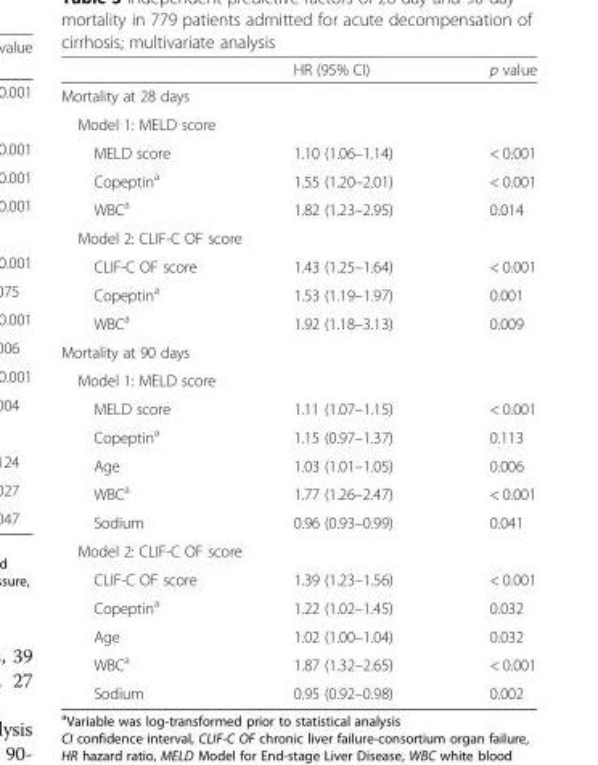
<table><thead><tr><td></td><td>HR (95% CI)</td><td>p value</td></tr></thead><tbody><tr><td colspan="3">Mortality at 28 days</td></tr><tr><td colspan="3">Model 1: MELD score</td></tr><tr><td>MELD score</td><td>1.10 (1.06–1.14)</td><td>&lt; 0.001</td></tr><tr><td>Copeptin<sup>a</sup></td><td>1.55 (1.20–2.01)</td><td>&lt; 0.001</td></tr><tr><td>WBC<sup>a</sup></td><td>1.82 (1.23–2.95)</td><td>0.014</td></tr><tr><td colspan="3">Model 2: CLIF-C OF score</td></tr><tr><td>CLIF-C OF score</td><td>1.43 (1.25–1.64)</td><td>&lt; 0.001</td></tr><tr><td>Copeptin<sup>a</sup></td><td>1.53 (1.19–1.97)</td><td>0.001</td></tr><tr><td>WBC<sup>a</sup></td><td>1.92 (1.18–3.13)</td><td>0.009</td></tr><tr><td colspan="3">Mortality at 90 days</td></tr><tr><td colspan="3">Model 1: MELD score</td></tr><tr><td>MELD score</td><td>1.11 (1.07–1.15)</td><td>&lt; 0.001</td></tr><tr><td>Copeptin<sup>a</sup></td><td>1.15 (0.97–1.37)</td><td>0.113</td></tr><tr><td>Age</td><td>1.03 (1.01–1.05)</td><td>0.006</td></tr><tr><td>WBC<sup>a</sup></td><td>1.77 (1.26–2.47)</td><td>&lt; 0.001</td></tr><tr><td>Sodium</td><td>0.96 (0.93–0.99)</td><td>0.041</td></tr><tr><td colspan="3">Model 2: CLIF-C OF score</td></tr><tr><td>CLIF-C OF score</td><td>1.39 (1.23–1.56)</td><td>&lt; 0.001</td></tr><tr><td>Copeptin<sup>a</sup></td><td>1.22 (1.02–1.45)</td><td>0.032</td></tr><tr><td>Age</td><td>1.02 (1.00–1.04)</td><td>0.032</td></tr><tr><td>WBC<sup>a</sup></td><td>1.87 (1.32–2.65)</td><td>&lt; 0.001</td></tr><tr><td>Sodium</td><td>0.95 (0.92–0.98)</td><td>0.002</td></tr></tbody></table>